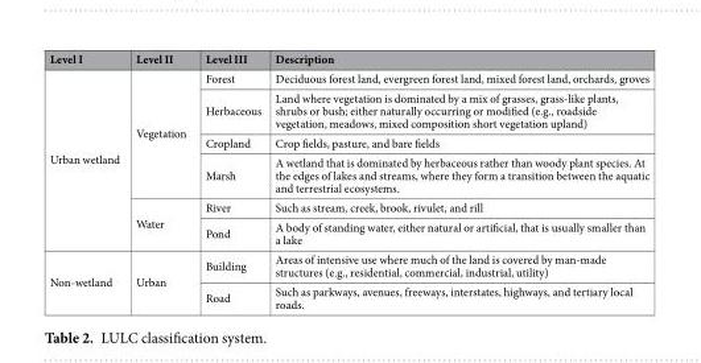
<table><thead><tr><td>Level I</td><td>Level II</td><td>Level III</td><td>Description</td></tr></thead><tbody><tr><td rowspan="6">Urban wetland</td><td rowspan="4">Vegetation</td><td>Forest</td><td>Deciduous forest land, evergreen forest land, mixed forest land, orchards, groves</td></tr><tr><td>Herbaceous</td><td>Land where vegetation is dominated by a mix of grasses, grass-like plants, shrubs or bush; either naturally occurring or modified (e.g., roadside vegetation, meadows, mixed composition short vegetation upland)</td></tr><tr><td>Cropland</td><td>Crop fields, pasture, and bare fields</td></tr><tr><td>Marsh</td><td>A wetland that is dominated by herbaceous rather than woody plant species. At the edges of lakes and streams, where they form a transition between the aquatic and terrestrial ecosystems.</td></tr><tr><td rowspan="2">Water</td><td>River</td><td>Such as stream, creek, brook, rivulet, and rill</td></tr><tr><td>Pond</td><td>A body of standing water, either natural or artificial, that is usually smaller than a lake</td></tr><tr><td rowspan="2">Non-wetland</td><td rowspan="2">Urban</td><td>Building</td><td>Areas of intensive use where much of the land is covered by man-made structures (e.g., residential, commercial, industrial, utility)</td></tr><tr><td>Road</td><td>Such as parkways, avenues, freeways, interstates, highways, and tertiary local roads.</td></tr></tbody></table>